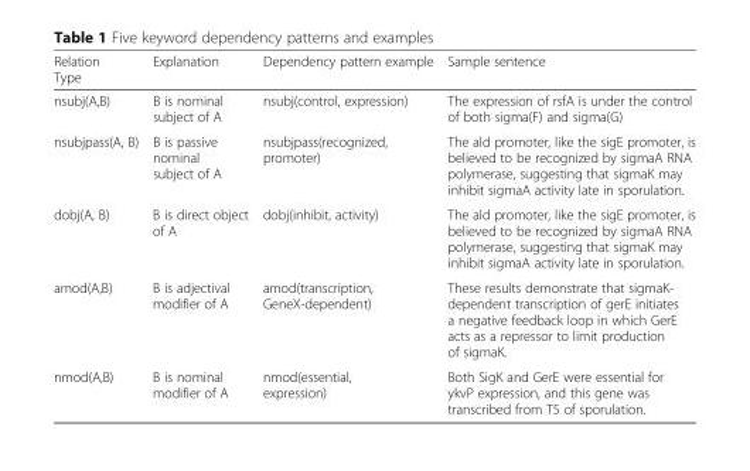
<table><thead><tr><td>Relation Type</td><td>Explanation</td><td>Dependency pattern example</td><td>Sample sentence</td></tr></thead><tbody><tr><td>nsubj(A,B)</td><td>B is nominal subject of A</td><td>nsubj(control, expression)</td><td>The expression of rsfA is under the control of both sigma(F) and sigma(G)</td></tr><tr><td>nsubjpass(A, B)</td><td>B is passive nominal subject of A</td><td>nsubjpass(recognized, promoter)</td><td>The ald promoter, like the sigE promoter, is believed to be recognized by sigmaA RNA polymerase, suggesting that sigmaK may inhibit sigmaA activity late in sporulation.</td></tr><tr><td>dobj(A, B)</td><td>B is direct object of A</td><td>dobj(inhibit, activity)</td><td>The ald promoter, like the sigE promoter, is believed to be recognized by sigmaA RNA polymerase, suggesting that sigmaK may inhibit sigmaA activity late in sporulation.</td></tr><tr><td>amod(A,B)</td><td>B is adjectival modifier of A</td><td>amod(transcription, GeneX-dependent)</td><td>These results demonstrate that sigmaK- dependent transcription of gerE initiates a negative feedback loop in which GerE acts as a repressor to limit production of sigmaK.</td></tr><tr><td>nmod(A,B)</td><td>B is nominal modifier of A</td><td>nmod(essential, expression)</td><td>Both SigK and GerE were essential for ykvP expression, and this gene was transcribed from T5 of sporulation.</td></tr></tbody></table>